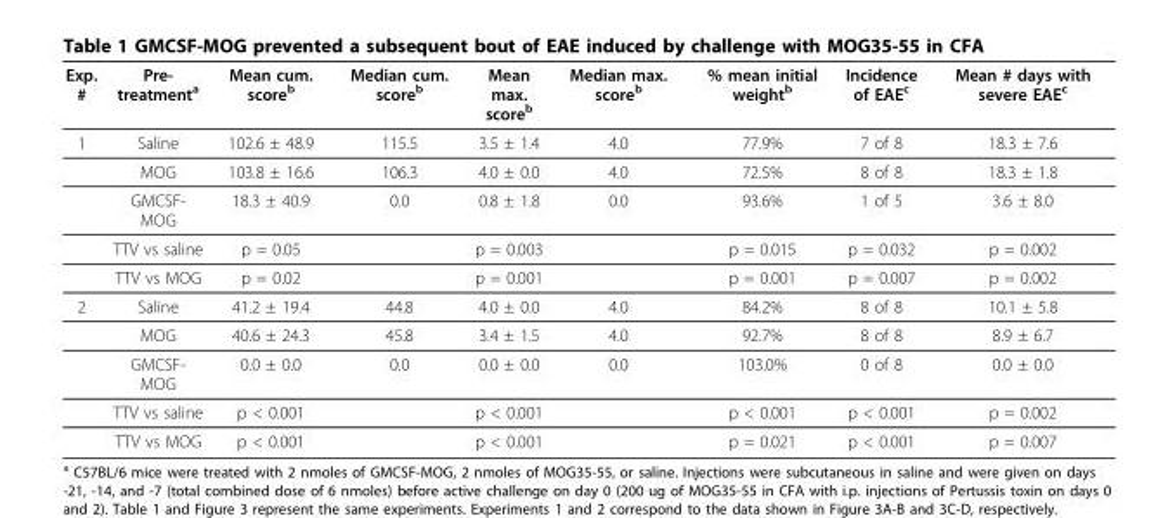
<table><thead><tr><td>Exp. #</td><td>Pre- treatment<sup>a</sup></td><td>Mean cum. score<sup>b</sup></td><td>Median cum. score<sup>b</sup></td><td>Mean max. score<sup>b</sup></td><td>Median max. score<sup>b</sup></td><td>% mean initial weight<sup>b</sup></td><td>Incidence of EAE<sup>c</sup></td><td>Mean # days with severe EAE<sup>c</sup></td></tr></thead><tbody><tr><td rowspan="5">1</td><td>Saline</td><td>102.6 ± 48.9</td><td>115.5</td><td>3.5 ± 1.4</td><td>4.0</td><td>77.9%</td><td>7 of 8</td><td>18.3 ± 7.6</td></tr><tr><td>MOG</td><td>103.8 ± 16.6</td><td>106.3</td><td>4.0 ± 0.0</td><td>4.0</td><td>72.5%</td><td>8 of 8</td><td>18.3 ± 1.8</td></tr><tr><td>GMCSF- MOG</td><td>18.3 ± 40.9</td><td>0.0</td><td>0.8 ± 1.8</td><td>0.0</td><td>93.6%</td><td>1 of 5</td><td>3.6 ± 8.0</td></tr><tr><td>TTV vs saline</td><td>p = 0.05</td><td></td><td>p = 0.003</td><td></td><td>p = 0.015</td><td>p = 0.032</td><td>p = 0.002</td></tr><tr><td>TTV vs MOG</td><td>p = 0.02</td><td></td><td>p = 0.001</td><td></td><td>p = 0.001</td><td>p = 0.007</td><td>p = 0.002</td></tr><tr><td rowspan="5">2</td><td>Saline</td><td>41.2 ± 19.4</td><td>44.8</td><td>4.0 ± 0.0</td><td>4.0</td><td>84.2%</td><td>8 of 8</td><td>10.1 ± 5.8</td></tr><tr><td>MOG</td><td>40.6 ± 24.3</td><td>45.8</td><td>3.4 ± 1.5</td><td>4.0</td><td>92.7%</td><td>8 of 8</td><td>8.9 ± 6.7</td></tr><tr><td>GMCSF- MOG</td><td>0.0 ± 0.0</td><td>0.0</td><td>0.0 ± 0.0</td><td>0.0</td><td>103.0%</td><td>0 of 8</td><td>0.0 ± 0.0</td></tr><tr><td>TTV vs saline</td><td>p &lt; 0.001</td><td></td><td>p &lt; 0.001</td><td></td><td>p &lt; 0.001</td><td>p &lt; 0.001</td><td>p = 0.002</td></tr><tr><td>TTV vs MOG</td><td>p &lt; 0.001</td><td></td><td>p &lt; 0.001</td><td></td><td>p = 0.021</td><td>p &lt; 0.001</td><td>p = 0.007</td></tr></tbody></table>